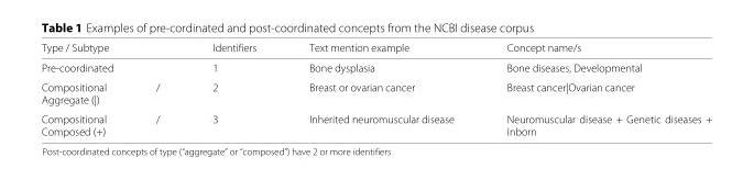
<table><thead><tr><td>Type / Subtype</td><td>Identifiers</td><td>Text mention example</td><td>Concept name/s</td></tr></thead><tbody><tr><td>Pre-coordinated</td><td>1</td><td>Bone dysplasia</td><td>Bone diseases, Developmental</td></tr><tr><td>Compositional / Aggregate (|)</td><td>2</td><td>Breast or ovarian cancer</td><td>Breast cancer|Ovarian cancer</td></tr><tr><td>Compositional / Composed (+)</td><td>3</td><td>Inherited neuromuscular disease</td><td>Neuromuscular disease + Genetic diseases + Inborn</td></tr></tbody></table>